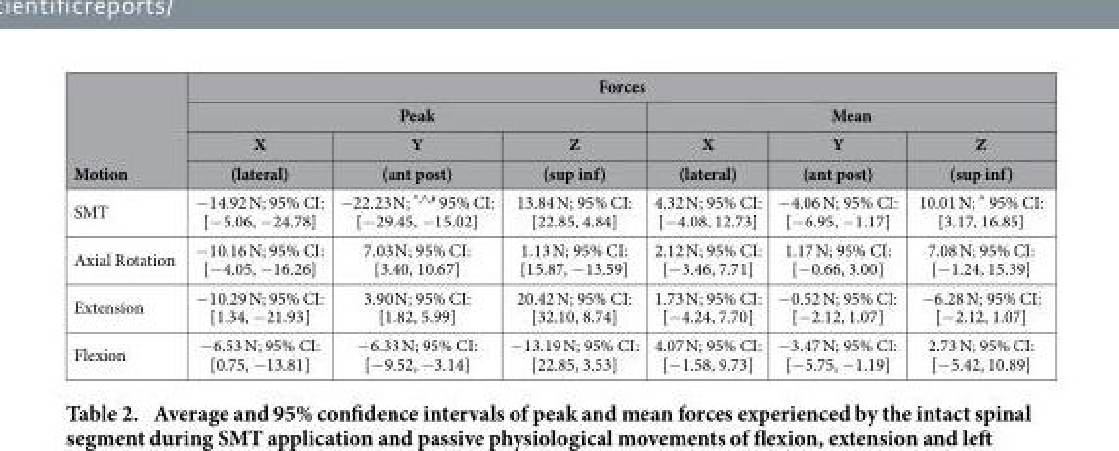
<table><thead><tr><td rowspan="4">Motion</td><td colspan="6">Forces</td></tr><tr><td colspan="3">Peak</td><td colspan="3">Mean</td></tr><tr><td rowspan="2">X (lateral)</td><td rowspan="2">Y (ant post)</td><td rowspan="2">Z (sup inf)</td><td rowspan="2">X (lateral)</td><td rowspan="2">Y (ant post)</td><td rowspan="2">Z (sup inf)</td></tr><tr></tr></thead><tbody><tr><td>SMT</td><td>− 14.92 N; 95% CI: [− 5.06, − 24.78]</td><td>− 22.23 N; <sup>*,^,#</sup> 95% CI: [− 29.45, − 15.02]</td><td>13.84 N; 95% CI: [22.85, 4.84]</td><td>4.32 N; 95% CI: [− 4.08, 12.73]</td><td>− 4.06 N; 95% CI: [− 6.95, − 1.17]</td><td>10.01 N; <sup>^</sup> 95% CI: [3.17, 16.85]</td></tr><tr><td>Axial Rotation</td><td>− 10.16 N; 95% CI: [− 4.05, − 16.26]</td><td>7.03 N; 95% CI: [3.40, 10.67]</td><td>1.13 N; 95% CI: [15.87, − 13.59]</td><td>2.12 N; 95% CI: [− 3.46, 7.71]</td><td>1.17 N; 95% CI: [− 0.66, 3.00]</td><td>7.08 N; 95% CI: [− 1.24, 15.39]</td></tr><tr><td>Extension</td><td>− 10.29 N; 95% CI: [1.34, − 21.93]</td><td>3.90 N; 95% CI: [1.82, 5.99]</td><td>20.42 N; 95% CI: [32.10, 8.74]</td><td>1.73 N; 95% CI: [− 4.24, 7.70]</td><td>− 0.52 N; 95% CI: [− 2.12, 1.07]</td><td>− 6.28 N; 95% CI: [− 2.12, 1.07]</td></tr><tr><td>Flexion</td><td>− 6.53 N; 95% CI: [0.75, − 13.81]</td><td>− 6.33 N; 95% CI: [− 9.52, − 3.14]</td><td>− 13.19 N; 95% CI: [22.85, 3.53]</td><td>4.07 N; 95% CI: [− 1.58, 9.73]</td><td>− 3.47 N; 95% CI: [− 5.75, − 1.19]</td><td>2.73 N; 95% CI: [− 5.42, 10.89]</td></tr></tbody></table>